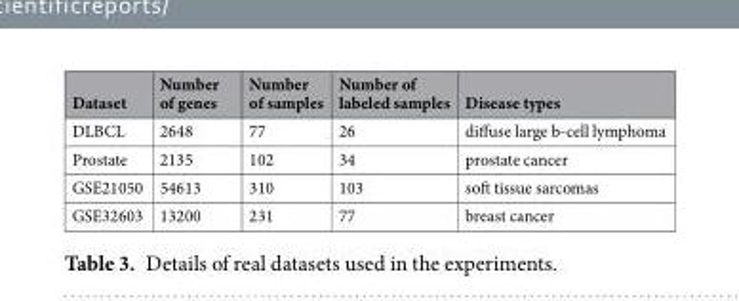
<table><thead><tr><td>Dataset</td><td>Number of genes</td><td>Number of samples</td><td>Number of labeled samples</td><td>Disease types</td></tr></thead><tbody><tr><td>DLBCL</td><td>2648</td><td>77</td><td>26</td><td>diffuse large b-cell lymphoma</td></tr><tr><td>Prostate</td><td>2135</td><td>102</td><td>34</td><td>prostate cancer</td></tr><tr><td>GSE21050</td><td>54613</td><td>310</td><td>103</td><td>soft tissue sarcomas</td></tr><tr><td>GSE32603</td><td>13200</td><td>231</td><td>77</td><td>breast cancer</td></tr></tbody></table>